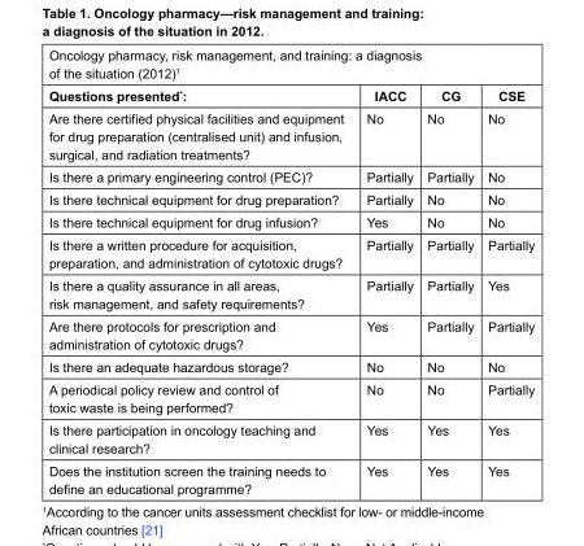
<table><thead><tr><td colspan="4">Oncology pharmacy, risk management, and training: a diagnosis of the situation (2012)<sup>1</sup></td></tr><tr><td>Questions presented*:</td><td>IACC</td><td>CG</td><td>CSE</td></tr></thead><tbody><tr><td>Are there certified physical facilities and equipment for drug preparation (centralised unit) and infusion, surgical, and radiation treatments?</td><td>No</td><td>No</td><td>No</td></tr><tr><td>Is there a primary engineering control (PEC)?</td><td>Partially</td><td>Partially</td><td>No</td></tr><tr><td>Is there technical equipment for drug preparation?</td><td>Partially</td><td>No</td><td>No</td></tr><tr><td>Is there technical equipment for drug infusion?</td><td>Yes</td><td>No</td><td>No</td></tr><tr><td>Is there a written procedure for acquisition, preparation, and administration of cytotoxic drugs?</td><td>Partially</td><td>Partially</td><td>Partially</td></tr><tr><td>Is there a quality assurance in all areas, risk management, and safety requirements?</td><td>Partially</td><td>Partially</td><td>Yes</td></tr><tr><td>Are there protocols for prescription and administration of cytotoxic drugs?</td><td>Yes</td><td>Partially</td><td>Partially</td></tr><tr><td>Is there an adequate hazardous storage?</td><td>No</td><td>No</td><td>No</td></tr><tr><td>A periodical policy review and control of toxic waste is being performed?</td><td>No</td><td>No</td><td>Partially</td></tr><tr><td>Is there participation in oncology teaching and clinical research?</td><td>Yes</td><td>Yes</td><td>Yes</td></tr><tr><td>Does the institution screen the training needs to define an educational programme?</td><td>Yes</td><td>Yes</td><td>Yes</td></tr></tbody></table>